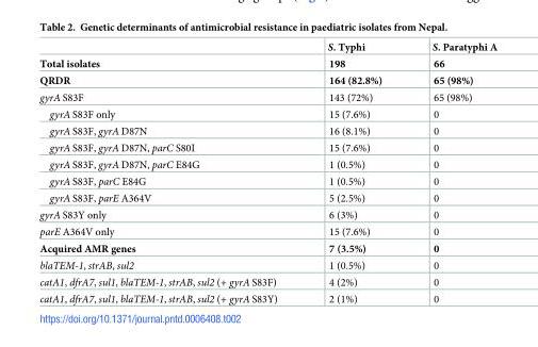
<table><thead><tr><td></td><td>S. Typhi</td><td>S. Paratyphi A</td></tr></thead><tbody><tr><td>Total isolates</td><td>198</td><td>66</td></tr><tr><td>QRDR</td><td>164 (82.8%)</td><td>65 (98%)</td></tr><tr><td>gyrA S83F</td><td>143 (72%)</td><td>65 (98%)</td></tr><tr><td>gyrA S83F only</td><td>15 (7.6%)</td><td>0</td></tr><tr><td>gyrA S83F, gyrA D87N</td><td>16 (8.1%)</td><td>0</td></tr><tr><td>gyrA S83F, gyrA D87N, parC S80I</td><td>15 (7.6%)</td><td>0</td></tr><tr><td>gyrA S83F, gyrA D87N, parC E84G</td><td>1 (0.5%)</td><td>0</td></tr><tr><td>gyrA S83F, parC E84G</td><td>1 (0.5%)</td><td>0</td></tr><tr><td>gyrA S83F, parE A364V</td><td>5 (2.5%)</td><td>0</td></tr><tr><td>gyrA S83Y only</td><td>6 (3%)</td><td>0</td></tr><tr><td>parE A364V only</td><td>15 (7.6%)</td><td>0</td></tr><tr><td>Acquired AMR genes</td><td>7 (3.5%)</td><td>0</td></tr><tr><td>blaTEM-1, strAB, sul2</td><td>1 (0.5%)</td><td>0</td></tr><tr><td>catA1, dfrA7, sul1, blaTEM-1, strAB, sul2 (+ gyrA S83F)</td><td>4 (2%)</td><td>0</td></tr><tr><td>catA1, dfrA7, sul1, blaTEM-1, strAB, sul2 (+ gyrA S83Y)</td><td>2 (1%)</td><td>0</td></tr></tbody></table>